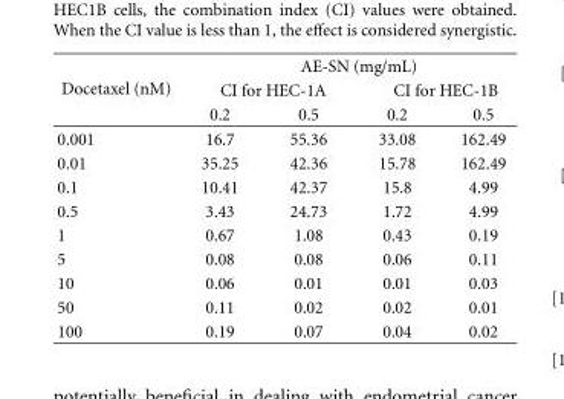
<table><thead><tr><td rowspan="3">Docetaxel (nM)</td><td colspan="4">AE-SN (mg/mL)</td></tr><tr><td colspan="2">CI for HEC-1A</td><td colspan="2">CI for HEC-1B</td></tr><tr><td>0.2</td><td>0.5</td><td>0.2</td><td>0.5</td></tr></thead><tbody><tr><td>0.001</td><td>16.7</td><td>55.36</td><td>33.08</td><td>162.49</td></tr><tr><td>0.01</td><td>35.25</td><td>42.36</td><td>15.78</td><td>162.49</td></tr><tr><td>0.1</td><td>10.41</td><td>42.37</td><td>15.8</td><td>4.99</td></tr><tr><td>0.5</td><td>3.43</td><td>24.73</td><td>1.72</td><td>4.99</td></tr><tr><td>1</td><td>0.67</td><td>1.08</td><td>0.43</td><td>0.19</td></tr><tr><td>5</td><td>0.08</td><td>0.08</td><td>0.06</td><td>0.11</td></tr><tr><td>10</td><td>0.06</td><td>0.01</td><td>0.01</td><td>0.03</td></tr><tr><td>50</td><td>0.11</td><td>0.02</td><td>0.02</td><td>0.01</td></tr><tr><td>100</td><td>0.19</td><td>0.07</td><td>0.04</td><td>0.02</td></tr></tbody></table>